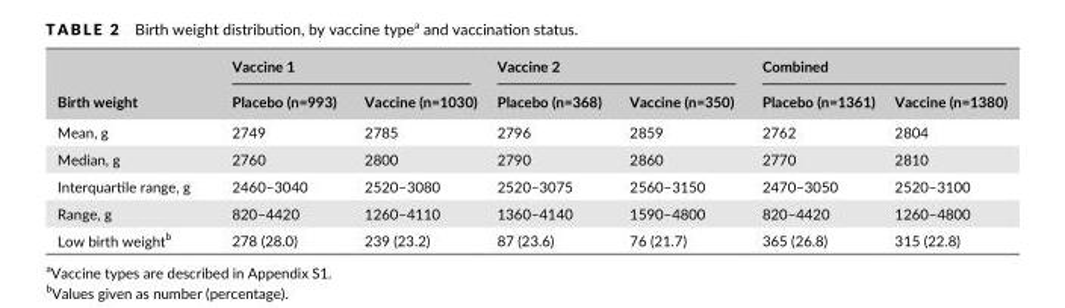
<table><thead><tr><td rowspan="2">Birth weight</td><td colspan="2">Vaccine 1</td><td colspan="2">Vaccine 2</td><td colspan="2">Combined</td></tr><tr><td>Placebo (n=993)</td><td>Vaccine (n=1030)</td><td>Placebo (n=368)</td><td>Vaccine (n=350)</td><td>Placebo (n=1361)</td><td>Vaccine (n=1380)</td></tr></thead><tbody><tr><td>Mean, g</td><td>2749</td><td>2785</td><td>2796</td><td>2859</td><td>2762</td><td>2804</td></tr><tr><td>Median, g</td><td>2760</td><td>2800</td><td>2790</td><td>2860</td><td>2770</td><td>2810</td></tr><tr><td>Interquartile range, g</td><td>2460–3040</td><td>2520–3080</td><td>2520–3075</td><td>2560–3150</td><td>2470–3050</td><td>2520–3100</td></tr><tr><td>Range, g</td><td>820–4420</td><td>1260–4110</td><td>1360–4140</td><td>1590–4800</td><td>820–4420</td><td>1260–4800</td></tr><tr><td>Low birth weight<sup>b</sup></td><td>278 (28.0)</td><td>239 (23.2)</td><td>87 (23.6)</td><td>76 (21.7)</td><td>365 (26.8)</td><td>315 (22.8)</td></tr></tbody></table>